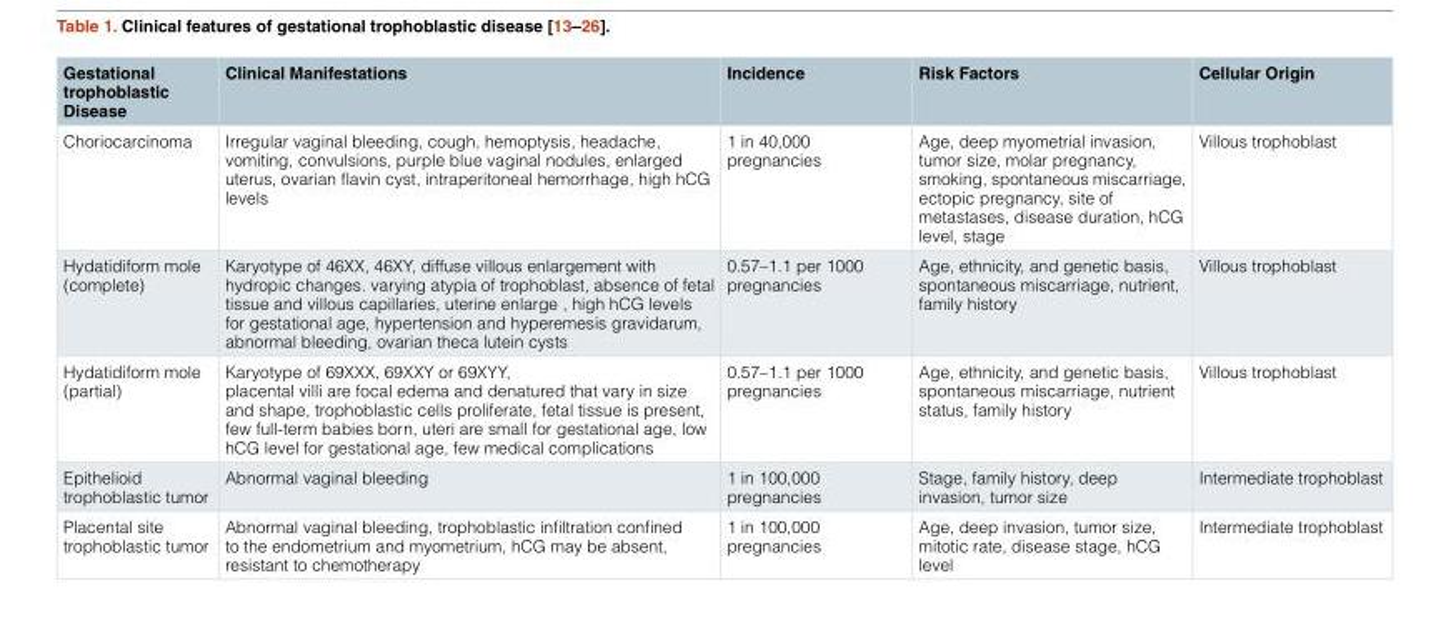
<table><thead><tr><td>Gestational trophoblastic Disease</td><td>Clinical Manifestations</td><td>Incidence</td><td>Risk Factors</td><td>Cellular Origin</td></tr></thead><tbody><tr><td>Choriocarcinoma</td><td>Irregular vaginal bleeding, cough, hemoptysis, headache, vomiting, convulsions, purple blue vaginal nodules, enlarged uterus, ovarian flavin cyst, intraperitoneal hemorrhage, high hCG levels</td><td>1 in 40,000 pregnancies</td><td>Age, deep myometrial invasion, tumor size, molar pregnancy, smoking, spontaneous miscarriage, ectopic pregnancy, site of metastases, disease duration, hCG level, stage</td><td>Villous trophoblast</td></tr><tr><td>Hydatidiform mole (complete)</td><td>Karyotype of 46XX, 46XY, diffuse villous enlargement with hydropic changes. varying atypia of trophoblast, absence of fetal tissue and villous capillaries, uterine enlarge , high hCG levels for gestational age, hypertension and hyperemesis gravidarum, abnormal bleeding, ovarian theca lutein cysts</td><td>0.57–1.1 per 1000 pregnancies</td><td>Age, ethnicity, and genetic basis, spontaneous miscarriage, nutrient, family history</td><td>Villous trophoblast</td></tr><tr><td>Hydatidiform mole (partial)</td><td>Karyotype of 69XXX, 69XXY or 69XYY, placental villi are focal edema and denatured that vary in size and shape, trophoblastic cells proliferate, fetal tissue is present, few full-term babies born, uteri are small for gestational age, low hCG level for gestational age, few medical complications</td><td>0.57–1.1 per 1000 pregnancies</td><td>Age, ethnicity, and genetic basis, spontaneous miscarriage, nutrient status, family history</td><td>Villous trophoblast</td></tr><tr><td>Epithelioid trophoblastic tumor</td><td>Abnormal vaginal bleeding</td><td>1 in 100,000 pregnancies</td><td>Stage, family history, deep invasion, tumor size</td><td>Intermediate trophoblast</td></tr><tr><td>Placental site trophoblastic tumor</td><td>Abnormal vaginal bleeding, trophoblastic infiltration confined to the endometrium and myometrium, hCG may be absent, resistant to chemotherapy</td><td>1 in 100,000 pregnancies</td><td>Age, deep invasion, tumor size, mitotic rate, disease stage, hCG level</td><td>Intermediate trophoblast</td></tr></tbody></table>